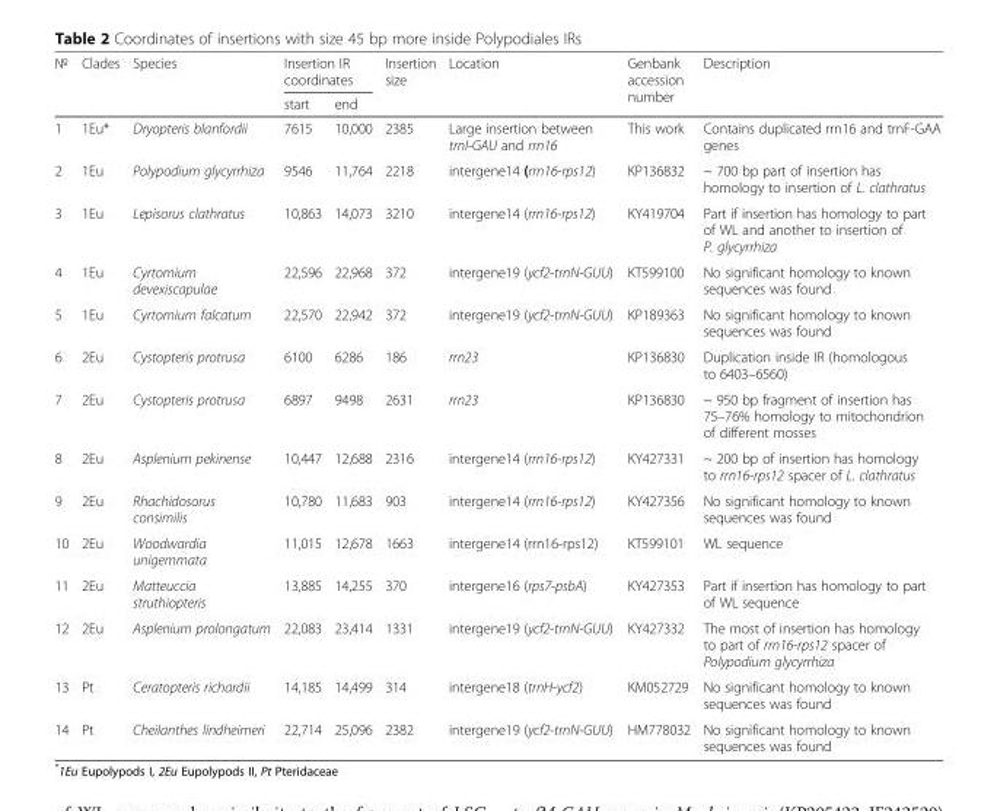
<table><thead><tr><td rowspan="2">№</td><td rowspan="2">Clades</td><td rowspan="2">Species</td><td colspan="2">Insertion IR coordinates</td><td rowspan="2">Insertion size</td><td rowspan="2">Location</td><td rowspan="2">Genbank accession number</td><td rowspan="2">Description</td></tr><tr><td>start</td><td>end</td></tr></thead><tbody><tr><td>1</td><td>1Eu*</td><td>Dryopteris blanfordii</td><td>7615</td><td>10,000</td><td>2385</td><td>Large insertion between trnI-GAU and rrn16</td><td>This work</td><td>Contains duplicated rrn16 and trnF-GAA genes</td></tr><tr><td>2</td><td>1Eu</td><td>Polypodium glycyrrhiza</td><td>9546</td><td>11,764</td><td>2218</td><td>intergene14 (rrn16-rps12)</td><td>KP136832</td><td>~ 700 bp part of insertion has homology to insertion of L. clathratus</td></tr><tr><td>3</td><td>1Eu</td><td>Lepisorus clathratus</td><td>10,863</td><td>14,073</td><td>3210</td><td>intergene14 (rrn16-rps12)</td><td>KY419704</td><td>Part if insertion has homology to part of WL and another to insertion of P. glycyrrhiza</td></tr><tr><td>4</td><td>1Eu</td><td>Cyrtomium devexiscapulae</td><td>22,596</td><td>22,968</td><td>372</td><td>intergene19 (ycf2-trnN-GUU)</td><td>KT599100</td><td>No significant homology to known sequences was found</td></tr><tr><td>5</td><td>1Eu</td><td>Cyrtomium falcatum</td><td>22,570</td><td>22,942</td><td>372</td><td>intergene19 (ycf2-trnN-GUU)</td><td>KP189363</td><td>No significant homology to known sequences was found</td></tr><tr><td>6</td><td>2Eu</td><td>Cystopteris protrusa</td><td>6100</td><td>6286</td><td>186</td><td>rrn23</td><td>KP136830</td><td>Duplication inside IR (homologous to 6403–6560)</td></tr><tr><td>7</td><td>2Eu</td><td>Cystopteris protrusa</td><td>6897</td><td>9498</td><td>2631</td><td>rrn23</td><td>KP136830</td><td>~ 950 bp fragment of insertion has 75–76% homology to mitochondrion of different mosses</td></tr><tr><td>8</td><td>2Eu</td><td>Asplenium pekinense</td><td>10,447</td><td>12,688</td><td>2316</td><td>intergene14 (rrn16-rps12)</td><td>KY427331</td><td>~ 200 bp of insertion has homology to rrn16-rps12 spacer of L. clathratus</td></tr><tr><td>9</td><td>2Eu</td><td>Rhachidosorus consimilis</td><td>10,780</td><td>11,683</td><td>903</td><td>intergene14 (rrn16-rps12)</td><td>KY427356</td><td>No significant homology to known sequences was found</td></tr><tr><td>10</td><td>2Eu</td><td>Woodwardia unigemmata</td><td>11,015</td><td>12,678</td><td>1663</td><td>intergene14 (rrn16-rps12)</td><td>KT599101</td><td>WL sequence</td></tr><tr><td>11</td><td>2Eu</td><td>Matteuccia struthiopteris</td><td>13,885</td><td>14,255</td><td>370</td><td>intergene16 (rps7-psbA)</td><td>KY427353</td><td>Part if insertion has homology to part of WL sequence</td></tr><tr><td>12</td><td>2Eu</td><td>Asplenium prolongatum</td><td>22,083</td><td>23,414</td><td>1331</td><td>intergene19 (ycf2-trnN-GUU)</td><td>KY427332</td><td>The most of insertion has homology to part of rrn16-rps12 spacer of Polypodium glycyrrhiza</td></tr><tr><td>13</td><td>Pt</td><td>Ceratopteris richardii</td><td>14,185</td><td>14,499</td><td>314</td><td>intergene18 (trnH-ycf2)</td><td>KM052729</td><td>No significant homology to known sequences was found</td></tr><tr><td>14</td><td>Pt</td><td>Cheilanthes lindheimeri</td><td>22,714</td><td>25,096</td><td>2382</td><td>intergene19 (ycf2-trnN-GUU)</td><td>HM778032</td><td>No significant homology to known sequences was found</td></tr></tbody></table>